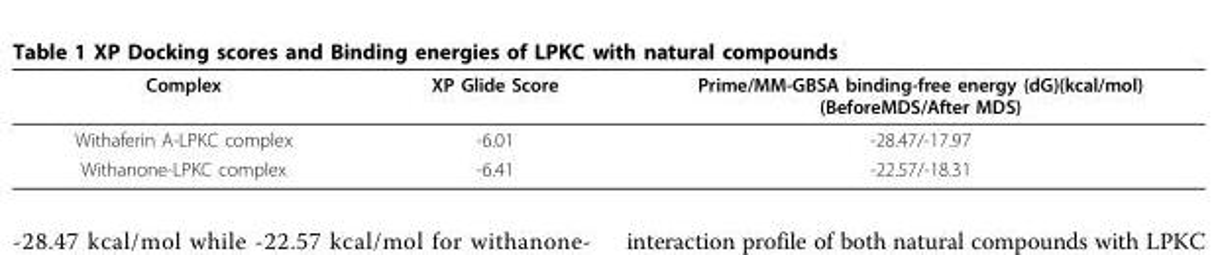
<table><thead><tr><td>Complex</td><td>XP Glide Score</td><td>Prime/MM-GBSA binding-free energy (dG)(kcal/mol) (BeforeMDS/After MDS)</td></tr></thead><tbody><tr><td>Withaferin A-LPKC complex</td><td>-6.01</td><td>-28.47/-17.97</td></tr><tr><td>Withanone-LPKC complex</td><td>-6.41</td><td>-22.57/-18.31</td></tr></tbody></table>